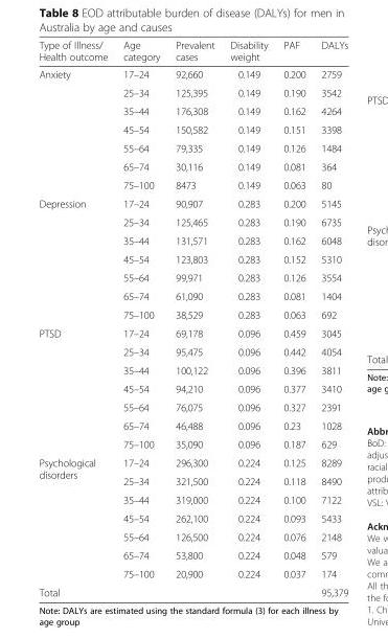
<table><thead><tr><td>Type of Illness/ Health outcome</td><td>Age category</td><td>Prevalent cases</td><td>Disability weight</td><td>PAF</td><td>DALYs</td></tr></thead><tbody><tr><td rowspan="7">Anxiety</td><td>17–24</td><td>92,660</td><td>0.149</td><td>0.200</td><td>2759</td></tr><tr><td>25–34</td><td>125,395</td><td>0.149</td><td>0.190</td><td>3542</td></tr><tr><td>35–44</td><td>176,308</td><td>0.149</td><td>0.162</td><td>4264</td></tr><tr><td>45–54</td><td>150,582</td><td>0.149</td><td>0.151</td><td>3398</td></tr><tr><td>55–64</td><td>79,335</td><td>0.149</td><td>0.126</td><td>1484</td></tr><tr><td>65–74</td><td>30,116</td><td>0.149</td><td>0.081</td><td>364</td></tr><tr><td>75–100</td><td>8473</td><td>0.149</td><td>0.063</td><td>80</td></tr><tr><td rowspan="7">Depression</td><td>17–24</td><td>90,907</td><td>0.283</td><td>0.200</td><td>5145</td></tr><tr><td>25–34</td><td>125,465</td><td>0.283</td><td>0.190</td><td>6735</td></tr><tr><td>35–44</td><td>131,571</td><td>0.283</td><td>0.162</td><td>6048</td></tr><tr><td>45–54</td><td>123,803</td><td>0.283</td><td>0.152</td><td>5310</td></tr><tr><td>55–64</td><td>99,971</td><td>0.283</td><td>0.126</td><td>3554</td></tr><tr><td>65–74</td><td>61,090</td><td>0.283</td><td>0.081</td><td>1404</td></tr><tr><td>75–100</td><td>38,529</td><td>0.283</td><td>0.063</td><td>692</td></tr><tr><td rowspan="7">PTSD</td><td>17–24</td><td>69,178</td><td>0.096</td><td>0.459</td><td>3045</td></tr><tr><td>25–34</td><td>95,475</td><td>0.096</td><td>0.442</td><td>4054</td></tr><tr><td>35–44</td><td>100,122</td><td>0.096</td><td>0.396</td><td>3811</td></tr><tr><td>45–54</td><td>94,210</td><td>0.096</td><td>0.377</td><td>3410</td></tr><tr><td>55–64</td><td>76,075</td><td>0.096</td><td>0.327</td><td>2391</td></tr><tr><td>65–74</td><td>46,488</td><td>0.096</td><td>0.23</td><td>1028</td></tr><tr><td>75–100</td><td>35,090</td><td>0.096</td><td>0.187</td><td>629</td></tr><tr><td rowspan="7">Psychological disorders</td><td>17–24</td><td>296,300</td><td>0.224</td><td>0.125</td><td>8289</td></tr><tr><td>25–34</td><td>321,500</td><td>0.224</td><td>0.118</td><td>8490</td></tr><tr><td>35–44</td><td>319,000</td><td>0.224</td><td>0.100</td><td>7122</td></tr><tr><td>45–54</td><td>262,100</td><td>0.224</td><td>0.093</td><td>5433</td></tr><tr><td>55–64</td><td>126,500</td><td>0.224</td><td>0.076</td><td>2148</td></tr><tr><td>65–74</td><td>53,800</td><td>0.224</td><td>0.048</td><td>579</td></tr><tr><td>75–100</td><td>20,900</td><td>0.224</td><td>0.037</td><td>174</td></tr><tr><td colspan="5">Total</td><td>95,379</td></tr></tbody></table>